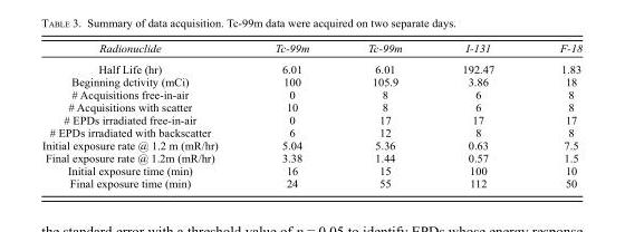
<table><thead><tr><td>Radionuclide</td><td>Tc-99m</td><td>Tc-99m</td><td>I-131</td><td>F-18</td></tr></thead><tbody><tr><td>Half Life (hr)</td><td>6.01</td><td>6.01</td><td>192.47</td><td>1.83</td></tr><tr><td>Beginning dctivity (mCi)</td><td>100</td><td>105.9</td><td>3.86</td><td>18</td></tr><tr><td># Acquisitions free-in-air</td><td>0</td><td>8</td><td>6</td><td>8</td></tr><tr><td># Acquisitions with scatter</td><td>10</td><td>8</td><td>6</td><td>8</td></tr><tr><td># EPDs irradiated free-in-air</td><td>0</td><td>17</td><td>17</td><td>17</td></tr><tr><td># EPDs irradiated with backscatter</td><td>6</td><td>12</td><td>8</td><td>8</td></tr><tr><td>Initial exposure rate @ 1.2 m (mR/hr)</td><td>5.04</td><td>5.36</td><td>0.63</td><td>7.5</td></tr><tr><td>Final exposure rate @ 1.2m (mR/hr)</td><td>3.38</td><td>1.44</td><td>0.57</td><td>1.5</td></tr><tr><td>Initial exposure time (min)</td><td>16</td><td>15</td><td>100</td><td>10</td></tr><tr><td>Final exposure time (min)</td><td>24</td><td>55</td><td>112</td><td>50</td></tr></tbody></table>